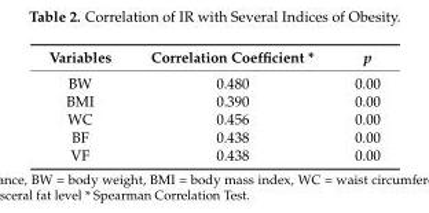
<table><thead><tr><td>Variables</td><td>Correlation Coefficient *</td><td>p</td></tr></thead><tbody><tr><td>BW</td><td>0.480</td><td>0.00</td></tr><tr><td>BMI</td><td>0.390</td><td>0.00</td></tr><tr><td>WC</td><td>0.456</td><td>0.00</td></tr><tr><td>BF</td><td>0.438</td><td>0.00</td></tr><tr><td>VF</td><td>0.438</td><td>0.00</td></tr></tbody></table>